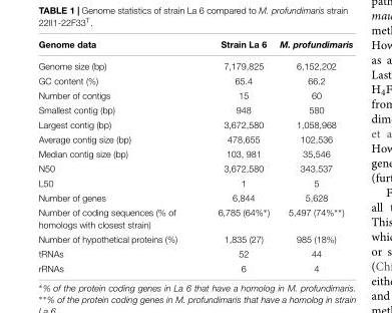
<table><thead><tr><td>Genome data</td><td>Strain La 6</td><td>M. profundimaris</td></tr></thead><tbody><tr><td>Genome size (bp)</td><td>7,179,825</td><td>6,152,202</td></tr><tr><td>GC content (%)</td><td>65.4</td><td>66.2</td></tr><tr><td>Number of contigs</td><td>15</td><td>60</td></tr><tr><td>Smallest contig (bp)</td><td>948</td><td>580</td></tr><tr><td>Largest contig (bp)</td><td>3,672,580</td><td>1,058,968</td></tr><tr><td>Average contig size (bp)</td><td>478,655</td><td>102,536</td></tr><tr><td>Median contig size (bp)</td><td>103, 981</td><td>35,546</td></tr><tr><td>N50</td><td>3,672,580</td><td>343,537</td></tr><tr><td>L50</td><td>1</td><td>5</td></tr><tr><td>Number of genes</td><td>6,844</td><td>5,628</td></tr><tr><td>Number of coding sequences (% of homologs with closest strain)</td><td>6,785 (64%∗)</td><td>5,497 (74%∗∗)</td></tr><tr><td>Number of hypothetical proteins (%)</td><td>1,835 (27)</td><td>985 (18%)</td></tr><tr><td>tRNAs</td><td>52</td><td>44</td></tr><tr><td>rRNAs</td><td>6</td><td>4</td></tr></tbody></table>